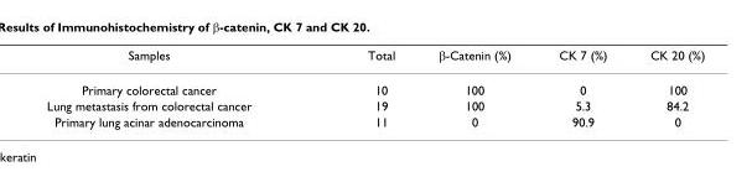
<table><thead><tr><td>Samples</td><td>Total</td><td>β-Catenin (%)</td><td>CK 7 (%)</td><td>CK 20 (%)</td></tr></thead><tbody><tr><td>Primary colorectal cancer</td><td>10</td><td>100</td><td>0</td><td>100</td></tr><tr><td>Lung metastasis from colorectal cancer</td><td>19</td><td>100</td><td>5.3</td><td>84.2</td></tr><tr><td>Primary lung acinar adenocarcinoma</td><td>11</td><td>0</td><td>90.9</td><td>0</td></tr></tbody></table>